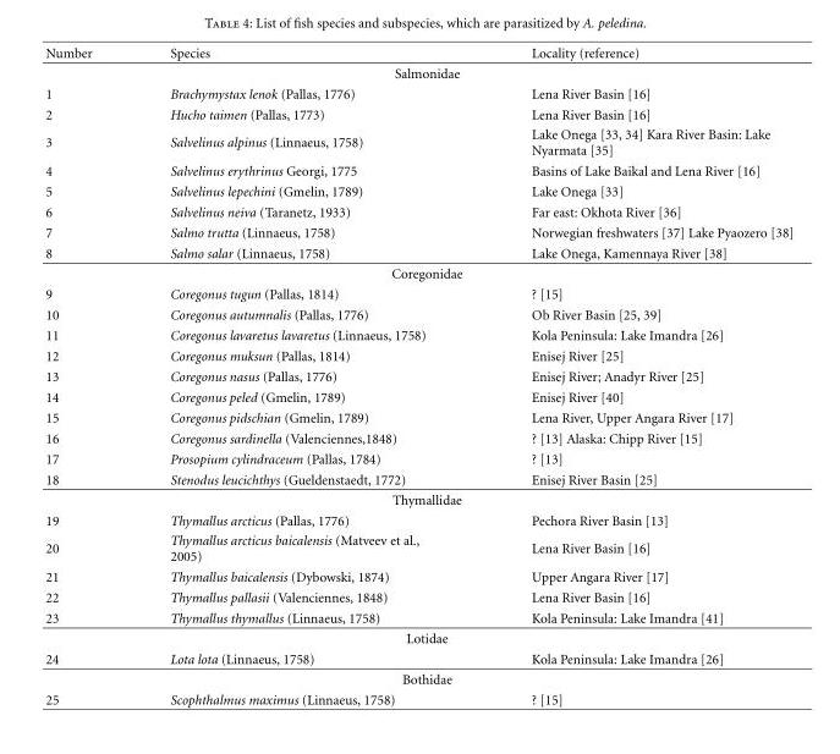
<table><thead><tr><td>Number</td><td>Species</td><td>Locality (reference)</td></tr></thead><tbody><tr><td colspan="3">Salmonidae</td></tr><tr><td>1</td><td>Brachymystax lenok (Pallas, 1776)</td><td>Lena River Basin [16]</td></tr><tr><td>2</td><td>Hucho taimen (Pallas, 1773)</td><td>Lena River Basin [16]</td></tr><tr><td>3</td><td>Salvelinus alpinus (Linnaeus, 1758)</td><td>Lake Onega [33, 34] Kara River Basin: Lake Nyarmata [35]</td></tr><tr><td>4</td><td>Salvelinus erythrinus Georgi, 1775</td><td>Basins of Lake Baikal and Lena River [16]</td></tr><tr><td>5</td><td>Salvelinus lepechini (Gmelin, 1789)</td><td>Lake Onega [33]</td></tr><tr><td>6</td><td>Salvelinus neiva (Taranetz, 1933)</td><td>Far east: Okhota River [36]</td></tr><tr><td>7</td><td>Salmo trutta (Linnaeus, 1758)</td><td>Norwegian freshwaters [37] Lake Pyaozero [38]</td></tr><tr><td>8</td><td>Salmo salar (Linnaeus, 1758)</td><td>Lake Onega, Kamennaya River [38]</td></tr><tr><td colspan="3">Coregonidae</td></tr><tr><td>9</td><td>Coregonus tugun (Pallas, 1814)</td><td>? [15]</td></tr><tr><td>10</td><td>Coregonus autumnalis (Pallas, 1776)</td><td>Ob River Basin [25, 39]</td></tr><tr><td>11</td><td>Coregonus lavaretus lavaretus (Linnaeus, 1758)</td><td>Kola Peninsula: Lake Imandra [26]</td></tr><tr><td>12</td><td>Coregonus muksun (Pallas, 1814)</td><td>Enisej River [25]</td></tr><tr><td>13</td><td>Coregonus nasus (Pallas, 1776)</td><td>Enisej River; Anadyr River [25]</td></tr><tr><td>14</td><td>Coregonus peled (Gmelin, 1789)</td><td>Enisej River [40]</td></tr><tr><td>15</td><td>Coregonus pidschian (Gmelin, 1789)</td><td>Lena River, Upper Angara River [17]</td></tr><tr><td>16</td><td>Coregonus sardinella (Valenciennes,1848)</td><td>? [13] Alaska: Chipp River [15]</td></tr><tr><td>17</td><td>Prosopium cylindraceum (Pallas, 1784)</td><td>? [13]</td></tr><tr><td>18</td><td>Stenodus leucichthys (Gueldenstaedt, 1772)</td><td>Enisej River Basin [25]</td></tr><tr><td colspan="3">Thymallidae</td></tr><tr><td>19</td><td>Thymallus arcticus (Pallas, 1776)</td><td>Pechora River Basin [13]</td></tr><tr><td>20</td><td>Thymallus arcticus baicalensis (Matveev et al., 2005)</td><td>Lena River Basin [16]</td></tr><tr><td>21</td><td>Thymallus baicalensis (Dybowski, 1874)</td><td>Upper Angara River [17]</td></tr><tr><td>22</td><td>Thymallus pallasii (Valenciennes, 1848)</td><td>Lena River Basin [16]</td></tr><tr><td>23</td><td>Thymallus thymallus (Linnaeus, 1758)</td><td>Kola Peninsula: Lake Imandra [41]</td></tr><tr><td colspan="3">Lotidae</td></tr><tr><td>24</td><td>Lota lota (Linnaeus, 1758)</td><td>Kola Peninsula: Lake Imandra [26]</td></tr><tr><td colspan="3">Bothidae</td></tr><tr><td>25</td><td>Scophthalmus maximus (Linnaeus, 1758)</td><td>? [15]</td></tr></tbody></table>